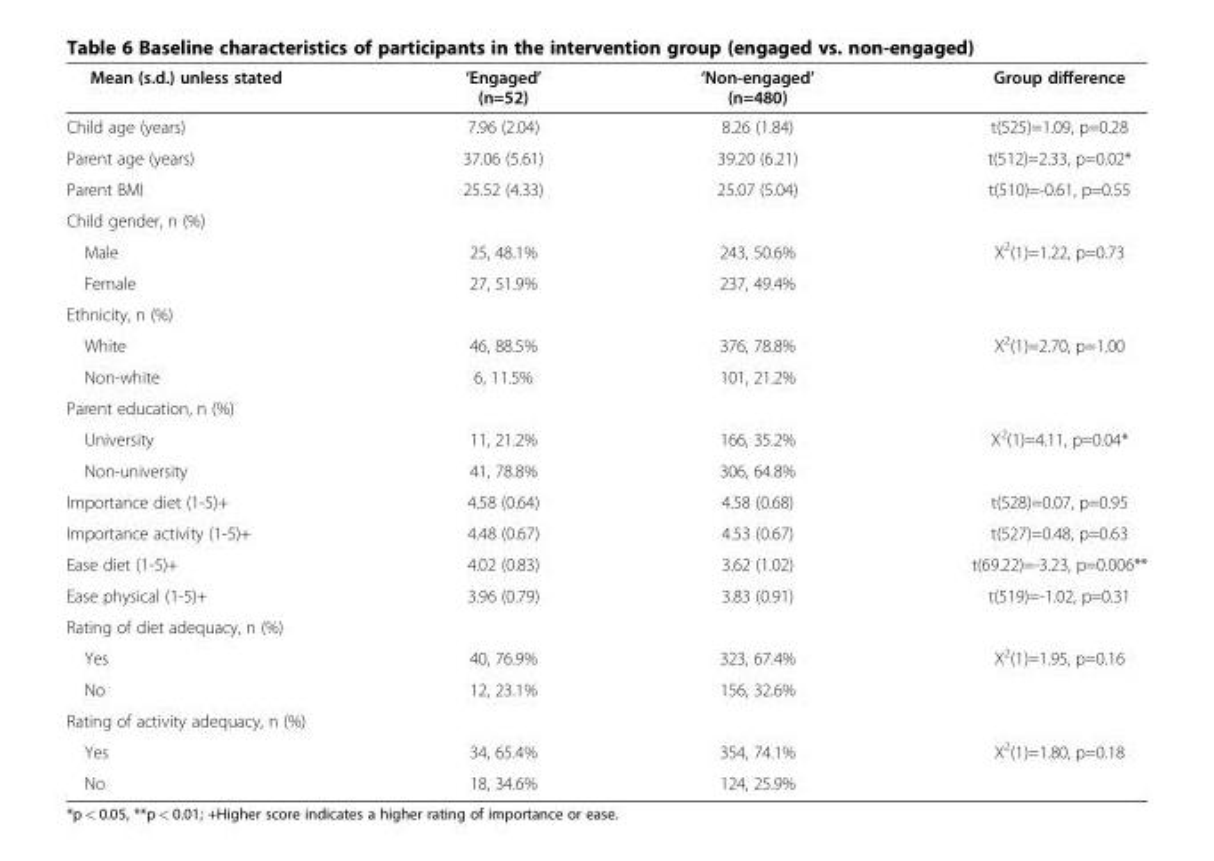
<table><thead><tr><td>Mean (s.d.) unless stated</td><td>‘Engaged’ (n=52)</td><td>‘Non-engaged’ (n=480)</td><td>Group difference</td></tr></thead><tbody><tr><td>Child age (years)</td><td>7.96 (2.04)</td><td>8.26 (1.84)</td><td>t(525)=1.09, p=0.28</td></tr><tr><td>Parent age (years)</td><td>37.06 (5.61)</td><td>39.20 (6.21)</td><td>t(512)=2.33, p=0.02*</td></tr><tr><td>Parent BMI</td><td>25.52 (4.33)</td><td>25.07 (5.04)</td><td>t(510)=-0.61, p=0.55</td></tr><tr><td colspan="4">Child gender, n (%)</td></tr><tr><td>Male</td><td>25, 48.1%</td><td>243, 50.6%</td><td>X<sup>2</sup>(1)=1.22, p=0.73</td></tr><tr><td>Female</td><td>27, 51.9%</td><td>237, 49.4%</td><td></td></tr><tr><td colspan="4">Ethnicity, n (%)</td></tr><tr><td>White</td><td>46, 88.5%</td><td>376, 78.8%</td><td>X<sup>2</sup>(1)=2.70, p=1.00</td></tr><tr><td>Non-white</td><td>6, 11.5%</td><td>101, 21.2%</td><td></td></tr><tr><td colspan="4">Parent education, n (%)</td></tr><tr><td>University</td><td>11, 21.2%</td><td>166, 35.2%</td><td>X<sup>2</sup>(1)=4.11, p=0.04*</td></tr><tr><td>Non-university</td><td>41, 78.8%</td><td>306, 64.8%</td><td></td></tr><tr><td>Importance diet (1-5)+</td><td>4.58 (0.64)</td><td>4.58 (0.68)</td><td>t(528)=0.07, p=0.95</td></tr><tr><td>Importance activity (1-5)+</td><td>4.48 (0.67)</td><td>4.53 (0.67)</td><td>t(527)=0.48, p=0.63</td></tr><tr><td>Ease diet (1-5)+</td><td>4.02 (0.83)</td><td>3.62 (1.02)</td><td>t(69.22)=-3.23, p=0.006**</td></tr><tr><td>Ease physical (1-5)+</td><td>3.96 (0.79)</td><td>3.83 (0.91)</td><td>t(519)=-1.02, p=0.31</td></tr><tr><td colspan="4">Rating of diet adequacy, n (%)</td></tr><tr><td>Yes</td><td>40, 76.9%</td><td>323, 67.4%</td><td>X<sup>2</sup>(1)=1.95, p=0.16</td></tr><tr><td>No</td><td>12, 23.1%</td><td>156, 32.6%</td><td></td></tr><tr><td colspan="4">Rating of activity adequacy, n (%)</td></tr><tr><td>Yes</td><td>34, 65.4%</td><td>354, 74.1%</td><td>X<sup>2</sup>(1)=1.80, p=0.18</td></tr><tr><td>No</td><td>18, 34.6%</td><td>124, 25.9%</td><td></td></tr></tbody></table>